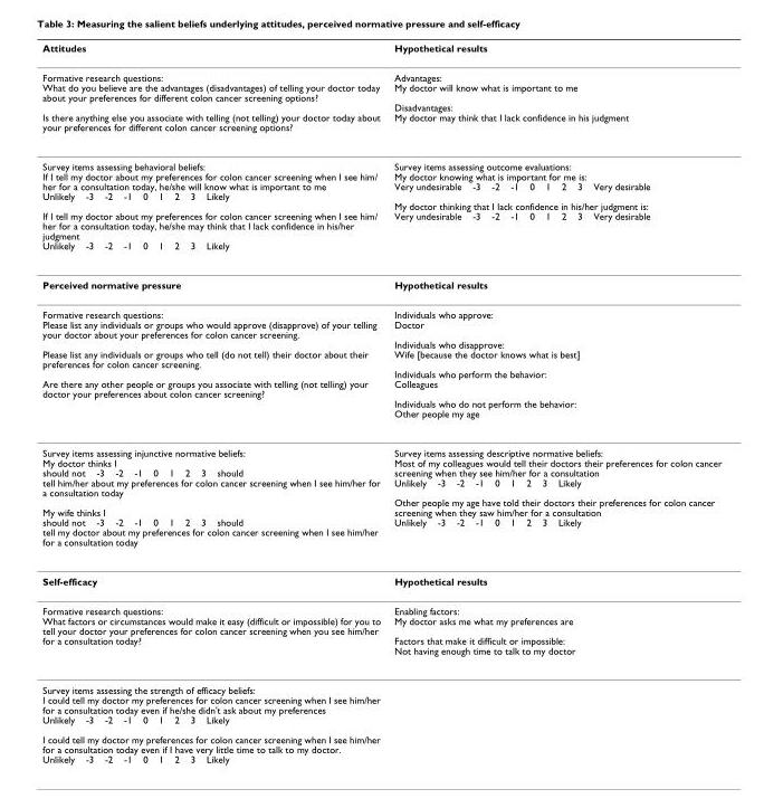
<table><thead><tr><td>Attitudes</td><td>Hypothetical results</td></tr></thead><tbody><tr><td>Formative research questions: What do you believe are the advantages (disadvantages) of telling your doctor today about your preferences for different colon cancer screening options? Is there anything else you associate with telling (not telling) your doctor today about your preferences for different colon cancer screening options?</td><td>Advantages: My doctor will know what is important to me Disadvantages: My doctor may think that I lack confidence in his judgment</td></tr><tr><td>Survey items assessing behavioral beliefs: If I tell my doctor about my preferences for colon cancer screening when I see him/ her for a consultation today, he/she will know what is important to me Unlikely -3 -2 -1 0 1 2 3 Likely If I tell my doctor about my preferences for colon cancer screening when I see him/ her for a consultation today, he/she may think that I lack confidence in his/her judgment Unlikely -3 -2 -1 0 1 2 3 Likely</td><td>Survey items assessing outcome evaluations: My doctor knowing what is important for me is: Very undesirable -3 -2 -1 0 1 2 3 Very desirable My doctor thinking that I lack confidence in his/her judgment is: Very undesirable -3 -2 -1 0 1 2 3 Very desirable</td></tr><tr><td>Perceived normative pressure</td><td>Hypothetical results</td></tr><tr><td>Formative research questions: Please list any individuals or groups who would approve (disapprove) of your telling your doctor about your preferences for colon cancer screening. Please list any individuals or groups who tell (do not tell) their doctor about their preferences for colon cancer screening. Are there any other people or groups you associate with telling (not telling) your doctor your preferences about colon cancer screening?</td><td>Individuals who approve: Doctor Individuals who disapprove: Wife [because the doctor knows what is best] Individuals who perform the behavior: Colleagues Individuals who do not perform the behavior: Other people my age</td></tr><tr><td>Survey items assessing injunctive normative beliefs: My doctor thinks I should not -3 -2 -1 0 1 2 3 should tell him/her about my preferences for colon cancer screening when I see him/her for a consultation today My wife thinks I should not -3 -2 -1 0 1 2 3 should tell my doctor about my preferences for colon cancer screening when I see him/her for a consultation today</td><td>Survey items assessing descriptive normative beliefs: Most of my colleagues would tell their doctors their preferences for colon cancer screening when they see him/her for a consultation Unlikely -3 -2 -1 0 1 2 3 Likely Other people my age have told their doctors their preferences for colon cancer screening when they saw him/her for a consultation Unlikely -3 -2 -1 0 1 2 3 Likely</td></tr><tr><td>Self-efficacy</td><td>Hypothetical results</td></tr><tr><td>Formative research questions: What factors or circumstances would make it easy (difficult or impossible) for you to tell your doctor your preferences for colon cancer screening when you see him/her for a consultation today?</td><td>Enabling factors: My doctor asks me what my preferences are Factors that make it difficult or impossible: Not having enough time to talk to my doctor</td></tr><tr><td>Survey items assessing the strength of efficacy beliefs: I could tell my doctor my preferences for colon cancer screening when I see him/her for a consultation today even if he/she didn&#x27;t ask about my preferences Unlikely -3 -2 -1 0 1 2 3 Likely I could tell my doctor my preferences for colon cancer screening when I see him/her for a consultation today even if I have very little time to talk to my doctor. Unlikely -3 -2 -1 0 1 2 3 Likely</td><td></td></tr></tbody></table>